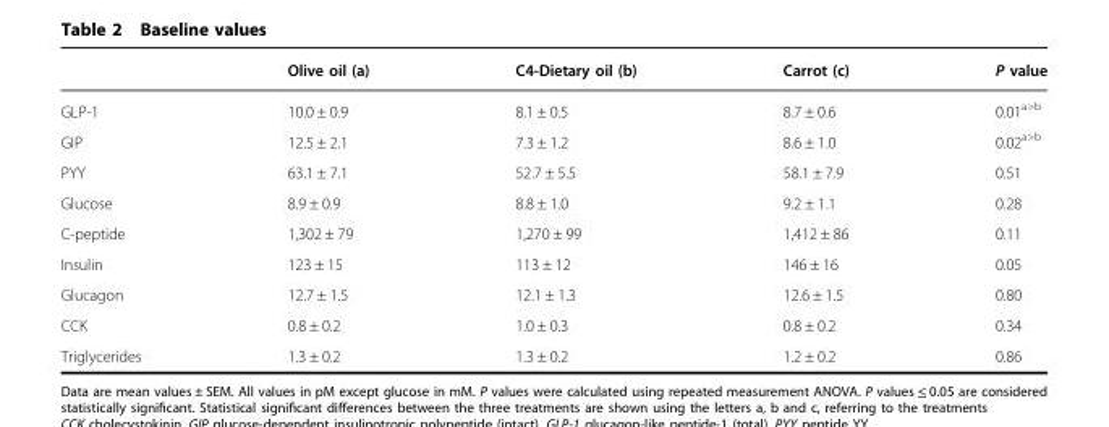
<table><thead><tr><td></td><td>Olive oil (a)</td><td>C4-Dietary oil (b)</td><td>Carrot (c)</td><td>P value</td></tr></thead><tbody><tr><td>GLP-1</td><td>10.0 ± 0.9</td><td>8.1 ± 0.5</td><td>8.7 ± 0.6</td><td>0.01<sup>a&gt;b</sup></td></tr><tr><td>GIP</td><td>12.5 ± 2.1</td><td>7.3 ± 1.2</td><td>8.6 ± 1.0</td><td>0.02<sup>a&gt;b</sup></td></tr><tr><td>PYY</td><td>63.1 ± 7.1</td><td>52.7 ± 5.5</td><td>58.1 ± 7.9</td><td>0.51</td></tr><tr><td>Glucose</td><td>8.9 ± 0.9</td><td>8.8 ± 1.0</td><td>9.2 ± 1.1</td><td>0.28</td></tr><tr><td>C-peptide</td><td>1,302 ± 79</td><td>1,270 ± 99</td><td>1,412 ± 86</td><td>0.11</td></tr><tr><td>Insulin</td><td>123 ± 15</td><td>113 ± 12</td><td>146 ± 16</td><td>0.05</td></tr><tr><td>Glucagon</td><td>12.7 ± 1.5</td><td>12.1 ± 1.3</td><td>12.6 ± 1.5</td><td>0.80</td></tr><tr><td>CCK</td><td>0.8 ± 0.2</td><td>1.0 ± 0.3</td><td>0.8 ± 0.2</td><td>0.34</td></tr><tr><td>Triglycerides</td><td>1.3 ± 0.2</td><td>1.3 ± 0.2</td><td>1.2 ± 0.2</td><td>0.86</td></tr></tbody></table>